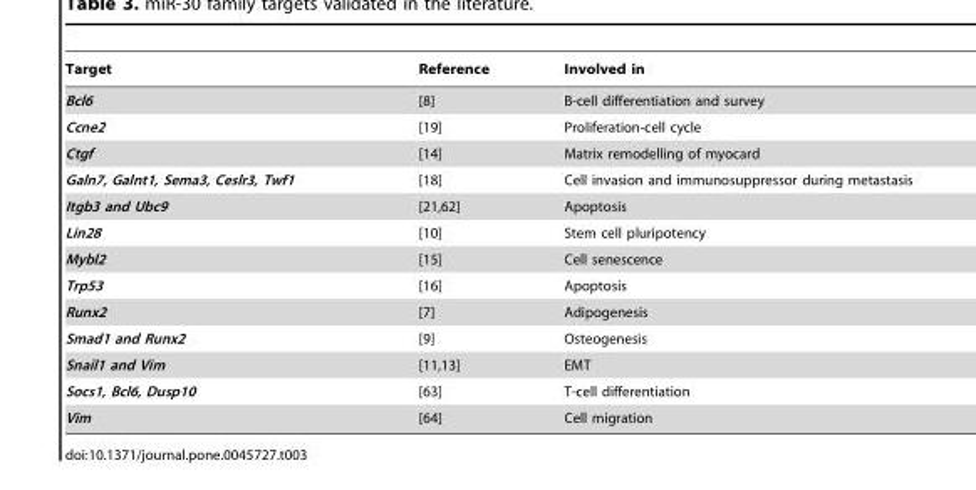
<table><thead><tr><td>Target</td><td>Reference</td><td>Involved in</td></tr></thead><tbody><tr><td>Bcl6</td><td>[8]</td><td>B-cell differentiation and survey</td></tr><tr><td>Ccne2</td><td>[19]</td><td>Proliferation-cell cycle</td></tr><tr><td>Ctgf</td><td>[14]</td><td>Matrix remodelling of myocard</td></tr><tr><td>Galn7, Galnt1, Sema3, Ceslr3, Twf1</td><td>[18]</td><td>Cell invasion and immunosuppressor during metastasis</td></tr><tr><td>Itgb3 and Ubc9</td><td>[21,62]</td><td>Apoptosis</td></tr><tr><td>Lin28</td><td>[10]</td><td>Stem cell pluripotency</td></tr><tr><td>Mybl2</td><td>[15]</td><td>Cell senescence</td></tr><tr><td>Trp53</td><td>[16]</td><td>Apoptosis</td></tr><tr><td>Runx2</td><td>[7]</td><td>Adipogenesis</td></tr><tr><td>Smad1 and Runx2</td><td>[9]</td><td>Osteogenesis</td></tr><tr><td>Snail1 and Vim</td><td>[11,13]</td><td>EMT</td></tr><tr><td>Socs1, Bcl6, Dusp10</td><td>[63]</td><td>T-cell differentiation</td></tr><tr><td>Vim</td><td>[64]</td><td>Cell migration</td></tr></tbody></table>